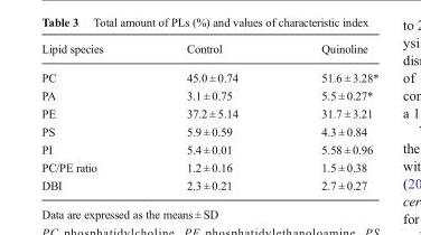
<table><thead><tr><td>Lipid species</td><td>Control</td><td>Quinoline</td></tr></thead><tbody><tr><td>PC</td><td>45.0 ± 0.74</td><td>51.6 ± 3.28*</td></tr><tr><td>PA</td><td>3.1 ± 0.75</td><td>5.5 ± 0.27*</td></tr><tr><td>PE</td><td>37.2 ± 5.14</td><td>31.7 ± 3.21</td></tr><tr><td>PS</td><td>5.9 ± 0.59</td><td>4.3 ± 0.84</td></tr><tr><td>PI</td><td>5.4 ± 0.01</td><td>5.58 ± 0.96</td></tr><tr><td>PC/PE ratio</td><td>1.2 ± 0.16</td><td>1.5 ± 0.38</td></tr><tr><td>DBI</td><td>2.3 ± 0.21</td><td>2.7 ± 0.27</td></tr></tbody></table>